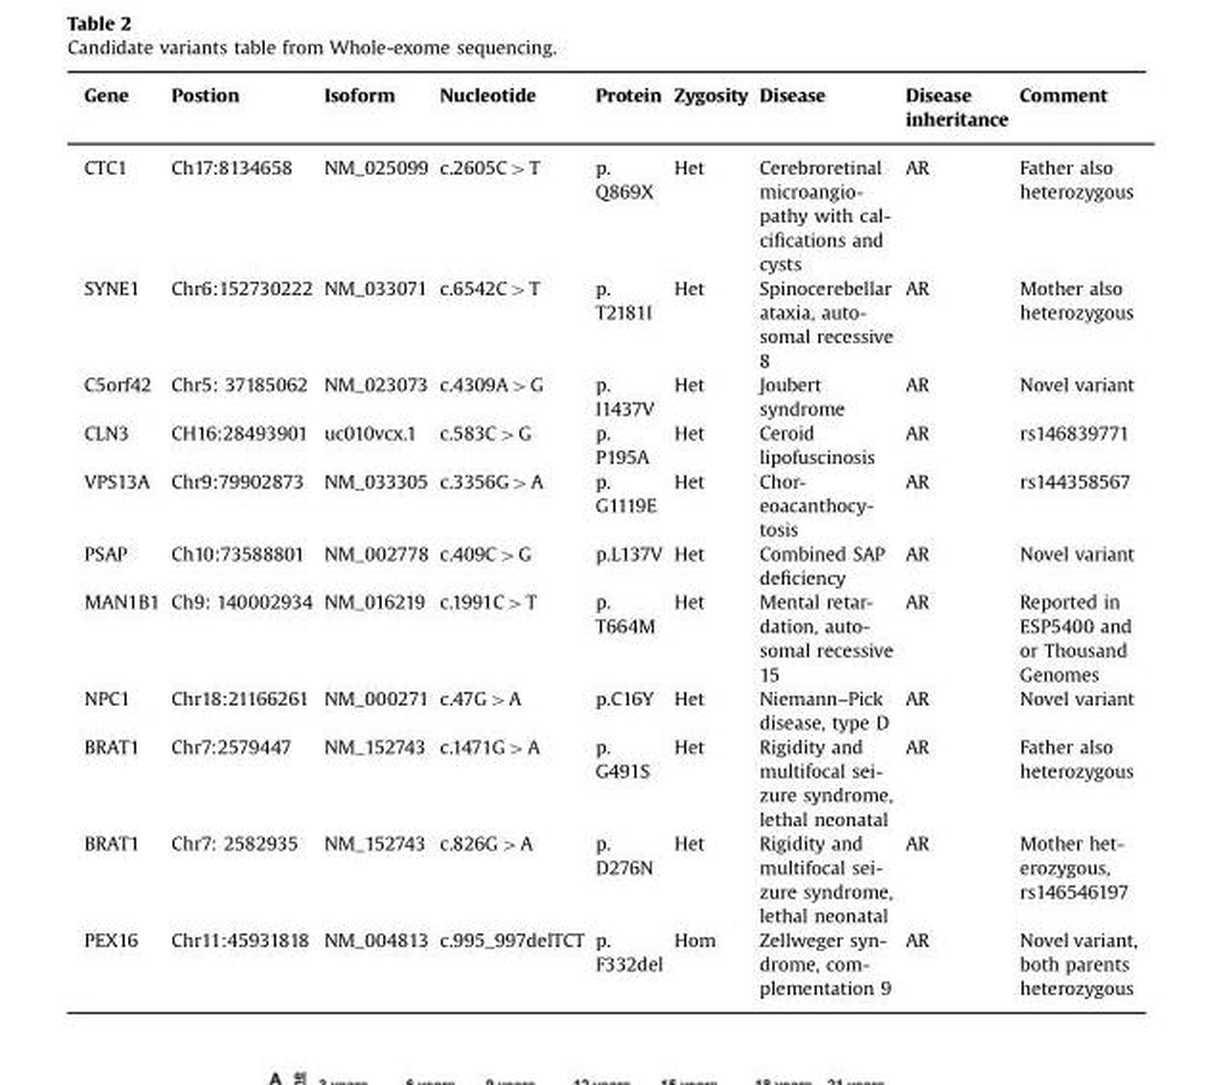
<table><thead><tr><td>Gene</td><td>Postion</td><td>Isoform</td><td>Nucleotide</td><td>Protein</td><td>Zygosity</td><td>Disease</td><td>Disease inheritance</td><td>Comment</td></tr></thead><tbody><tr><td>CTC1</td><td>Ch17:8134658</td><td>NM_025099</td><td>c.2605C&gt;T</td><td>p. Q869X</td><td>Het</td><td>Cerebroretinal microangio- pathy with cal- cifications and cysts</td><td>AR</td><td>Father also heterozygous</td></tr><tr><td>SYNE1</td><td>Chr6:152730222</td><td>NM_033071</td><td>c.6542C&gt;T</td><td>p. T2181I</td><td>Het</td><td>Spinocerebellar ataxia, auto- somal recessive 8</td><td>AR</td><td>Mother also heterozygous</td></tr><tr><td>C5orf42</td><td>Chr5: 37185062</td><td>NM_023073</td><td>c.4309A&gt;G</td><td>p. I1437V</td><td>Het</td><td>Joubert syndrome</td><td>AR</td><td>Novel variant</td></tr><tr><td>CLN3</td><td>CH16:28493901</td><td>uc010vcx.1</td><td>c.583C&gt;G</td><td>p. P195A</td><td>Het</td><td>Ceroid lipofuscinosis</td><td>AR</td><td>rs146839771</td></tr><tr><td>VPS13A</td><td>Chr9:79902873</td><td>NM_033305</td><td>c.3356G&gt;A</td><td>p. G1119E</td><td>Het</td><td>Chor- eoacanthocy- tosis</td><td>AR</td><td>rs144358567</td></tr><tr><td>PSAP</td><td>Ch10:73588801</td><td>NM_002778</td><td>c.409C&gt;G</td><td>p.L137V</td><td>Het</td><td>Combined SAP deficiency</td><td>AR</td><td>Novel variant</td></tr><tr><td>MAN1B1</td><td>Ch9: 140002934</td><td>NM_016219</td><td>c.1991C&gt;T</td><td>p. T664M</td><td>Het</td><td>Mental retar- dation, auto- somal recessive 15</td><td>AR</td><td>Reported in ESP5400 and or Thousand Genomes</td></tr><tr><td>NPC1</td><td>Chr18:21166261</td><td>NM_000271</td><td>c.47G&gt;A</td><td>p.C16Y</td><td>Het</td><td>Niemann–Pick disease, type D</td><td>AR</td><td>Novel variant</td></tr><tr><td>BRAT1</td><td>Chr7:2579447</td><td>NM_152743</td><td>c.1471G&gt;A</td><td>p. G491S</td><td>Het</td><td>Rigidity and multifocal sei- zure syndrome, lethal neonatal</td><td>AR</td><td>Father also heterozygous</td></tr><tr><td>BRAT1</td><td>Chr7: 2582935</td><td>NM_152743</td><td>c.826G&gt;A</td><td>p. D276N</td><td>Het</td><td>Rigidity and multifocal sei- zure syndrome, lethal neonatal</td><td>AR</td><td>Mother het- erozygous, rs146546197</td></tr><tr><td>PEX16</td><td>Chr11:45931818</td><td>NM_004813</td><td>c.995_997delTCT</td><td>p. F332del</td><td>Hom</td><td>Zellweger syn- drome, com- plementation 9</td><td>AR</td><td>Novel variant, both parents heterozygous</td></tr></tbody></table>